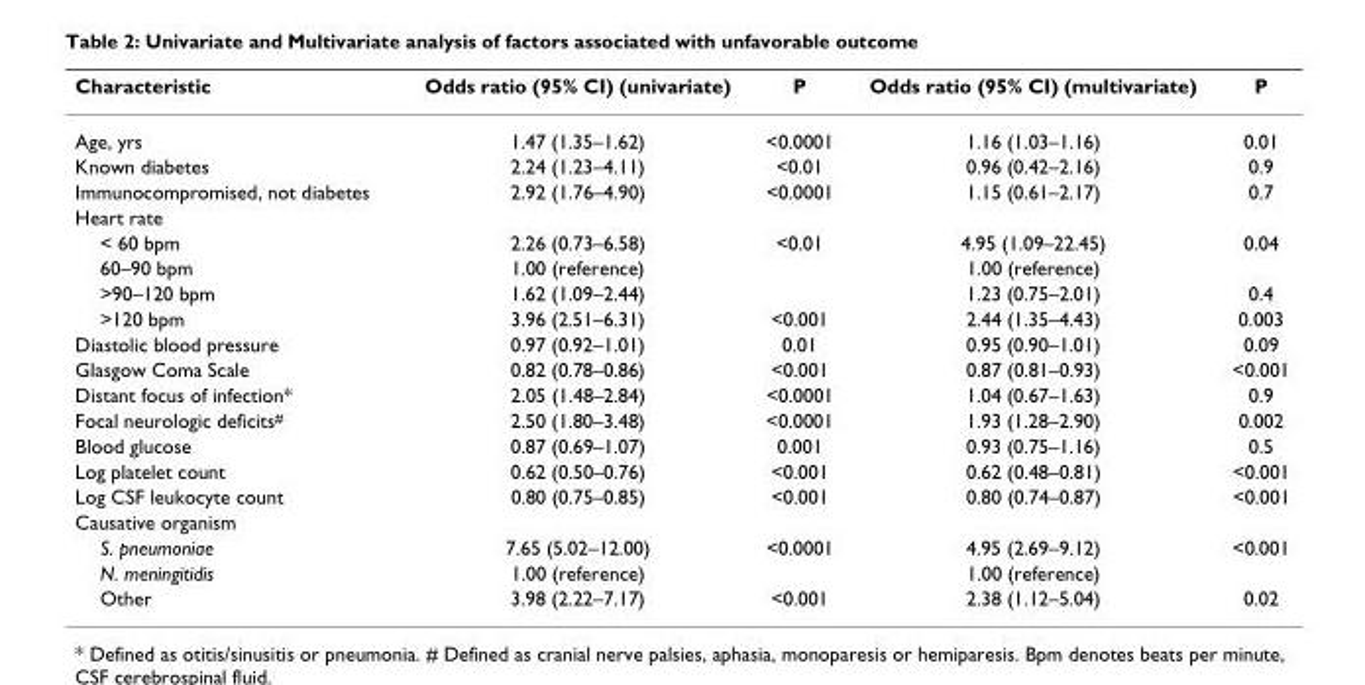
<table><thead><tr><td>Characteristic</td><td>Odds ratio (95% CI) (univariate)</td><td>P</td><td>Odds ratio (95% CI) (multivariate)</td><td>P</td></tr></thead><tbody><tr><td>Age, yrs</td><td>1.47 (1.35–1.62)</td><td>&lt;0.0001</td><td>1.16 (1.03–1.16)</td><td>0.01</td></tr><tr><td>Known diabetes</td><td>2.24 (1.23–4.11)</td><td>&lt;0.01</td><td>0.96 (0.42–2.16)</td><td>0.9</td></tr><tr><td>Immunocompromised, not diabetes</td><td>2.92 (1.76–4.90)</td><td>&lt;0.0001</td><td>1.15 (0.61–2.17)</td><td>0.7</td></tr><tr><td colspan="5">Heart rate</td></tr><tr><td>&lt; 60 bpm</td><td>2.26 (0.73–6.58)</td><td>&lt;0.01</td><td>4.95 (1.09–22.45)</td><td>0.04</td></tr><tr><td>60–90 bpm</td><td>1.00 (reference)</td><td></td><td>1.00 (reference)</td><td></td></tr><tr><td>&gt;90–120 bpm</td><td>1.62 (1.09–2.44)</td><td></td><td>1.23 (0.75–2.01)</td><td>0.4</td></tr><tr><td>&gt;120 bpm</td><td>3.96 (2.51–6.31)</td><td>&lt;0.001</td><td>2.44 (1.35–4.43)</td><td>0.003</td></tr><tr><td>Diastolic blood pressure</td><td>0.97 (0.92–1.01)</td><td>0.01</td><td>0.95 (0.90–1.01)</td><td>0.09</td></tr><tr><td>Glasgow Coma Scale</td><td>0.82 (0.78–0.86)</td><td>&lt;0.001</td><td>0.87 (0.81–0.93)</td><td>&lt;0.001</td></tr><tr><td>Distant focus of infection*</td><td>2.05 (1.48–2.84)</td><td>&lt;0.0001</td><td>1.04 (0.67–1.63)</td><td>0.9</td></tr><tr><td>Focal neurologic deficits<sup>#</sup></td><td>2.50 (1.80–3.48)</td><td>&lt;0.0001</td><td>1.93 (1.28–2.90)</td><td>0.002</td></tr><tr><td>Blood glucose</td><td>0.87 (0.69–1.07)</td><td>0.001</td><td>0.93 (0.75–1.16)</td><td>0.5</td></tr><tr><td>Log platelet count</td><td>0.62 (0.50–0.76)</td><td>&lt;0.001</td><td>0.62 (0.48–0.81)</td><td>&lt;0.001</td></tr><tr><td>Log CSF leukocyte count</td><td>0.80 (0.75–0.85)</td><td>&lt;0.001</td><td>0.80 (0.74–0.87)</td><td>&lt;0.001</td></tr><tr><td colspan="5">Causative organism</td></tr><tr><td>S. pneumoniae</td><td>7.65 (5.02–12.00)</td><td>&lt;0.0001</td><td>4.95 (2.69–9.12)</td><td>&lt;0.001</td></tr><tr><td>N. meningitidis</td><td>1.00 (reference)</td><td></td><td>1.00 (reference)</td><td></td></tr><tr><td>Other</td><td>3.98 (2.22–7.17)</td><td>&lt;0.001</td><td>2.38 (1.12–5.04)</td><td>0.02</td></tr></tbody></table>